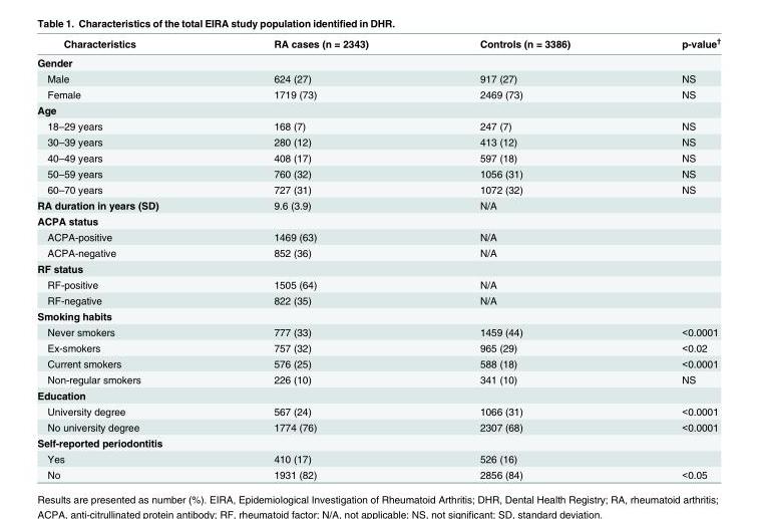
<table><thead><tr><td>Characteristics</td><td>RA cases (n = 2343)</td><td>Controls (n = 3386)</td><td>p-value<sup>†</sup></td></tr></thead><tbody><tr><td colspan="4">Gender</td></tr><tr><td>Male</td><td>624 (27)</td><td>917 (27)</td><td>NS</td></tr><tr><td>Female</td><td>1719 (73)</td><td>2469 (73)</td><td>NS</td></tr><tr><td colspan="4">Age</td></tr><tr><td>18–29 years</td><td>168 (7)</td><td>247 (7)</td><td>NS</td></tr><tr><td>30–39 years</td><td>280 (12)</td><td>413 (12)</td><td>NS</td></tr><tr><td>40–49 years</td><td>408 (17)</td><td>597 (18)</td><td>NS</td></tr><tr><td>50–59 years</td><td>760 (32)</td><td>1056 (31)</td><td>NS</td></tr><tr><td>60–70 years</td><td>727 (31)</td><td>1072 (32)</td><td>NS</td></tr><tr><td>RA duration in years (SD)</td><td>9.6 (3.9)</td><td>N/A</td><td></td></tr><tr><td colspan="4">ACPA status</td></tr><tr><td>ACPA-positive</td><td>1469 (63)</td><td>N/A</td><td></td></tr><tr><td>ACPA-negative</td><td>852 (36)</td><td>N/A</td><td></td></tr><tr><td colspan="4">RF status</td></tr><tr><td>RF-positive</td><td>1505 (64)</td><td>N/A</td><td></td></tr><tr><td>RF-negative</td><td>822 (35)</td><td>N/A</td><td></td></tr><tr><td colspan="4">Smoking habits</td></tr><tr><td>Never smokers</td><td>777 (33)</td><td>1459 (44)</td><td>&lt;0.0001</td></tr><tr><td>Ex-smokers</td><td>757 (32)</td><td>965 (29)</td><td>&lt;0.02</td></tr><tr><td>Current smokers</td><td>576 (25)</td><td>588 (18)</td><td>&lt;0.0001</td></tr><tr><td>Non-regular smokers</td><td>226 (10)</td><td>341 (10)</td><td>NS</td></tr><tr><td colspan="4">Education</td></tr><tr><td>University degree</td><td>567 (24)</td><td>1066 (31)</td><td>&lt;0.0001</td></tr><tr><td>No university degree</td><td>1774 (76)</td><td>2307 (68)</td><td>&lt;0.0001</td></tr><tr><td colspan="4">Self-reported periodontitis</td></tr><tr><td>Yes</td><td>410 (17)</td><td>526 (16)</td><td></td></tr><tr><td>No</td><td>1931 (82)</td><td>2856 (84)</td><td>&lt;0.05</td></tr></tbody></table>